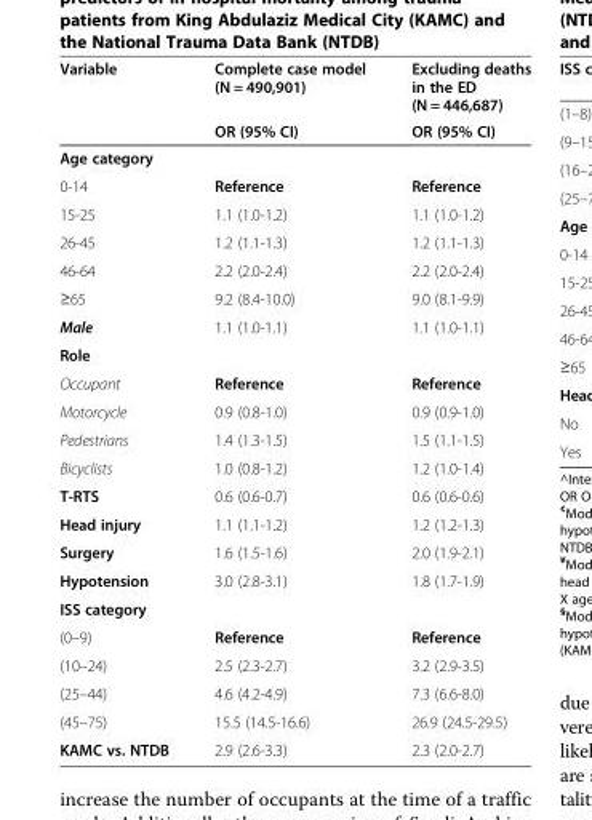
<table><thead><tr><td rowspan="2">Variable</td><td rowspan="2">Complete case model (N = 490,901) OR (95% CI)</td><td rowspan="2">Excluding deaths in the ED (N = 446,687) OR (95% CI)</td></tr><tr></tr></thead><tbody><tr><td colspan="3">Age category</td></tr><tr><td>0-14</td><td>Reference</td><td>Reference</td></tr><tr><td>15-25</td><td>1.1 (1.0-1.2)</td><td>1.1 (1.0-1.2)</td></tr><tr><td>26-45</td><td>1.2 (1.1-1.3)</td><td>1.2 (1.1-1.3)</td></tr><tr><td>46-64</td><td>2.2 (2.0-2.4)</td><td>2.2 (2.0-2.4)</td></tr><tr><td>≥65</td><td>9.2 (8.4-10.0)</td><td>9.0 (8.1-9.9)</td></tr><tr><td>Male</td><td>1.1 (1.0-1.1)</td><td>1.1 (1.0-1.1)</td></tr><tr><td colspan="3">Role</td></tr><tr><td>Occupant</td><td>Reference</td><td>Reference</td></tr><tr><td>Motorcycle</td><td>0.9 (0.8-1.0)</td><td>0.9 (0.9-1.0)</td></tr><tr><td>Pedestrians</td><td>1.4 (1.3-1.5)</td><td>1.5 (1.1-1.5)</td></tr><tr><td>Bicyclists</td><td>1.0 (0.8-1.2)</td><td>1.2 (1.0-1.4)</td></tr><tr><td>T-RTS</td><td>0.6 (0.6-0.7)</td><td>0.6 (0.6-0.6)</td></tr><tr><td>Head injury</td><td>1.1 (1.1-1.2)</td><td>1.2 (1.2-1.3)</td></tr><tr><td>Surgery</td><td>1.6 (1.5-1.6)</td><td>2.0 (1.9-2.1)</td></tr><tr><td>Hypotension</td><td>3.0 (2.8-3.1)</td><td>1.8 (1.7-1.9)</td></tr><tr><td colspan="3">ISS category</td></tr><tr><td>(0–9)</td><td>Reference</td><td>Reference</td></tr><tr><td>(10–24)</td><td>2.5 (2.3-2.7)</td><td>3.2 (2.9-3.5)</td></tr><tr><td>(25–44)</td><td>4.6 (4.2-4.9)</td><td>7.3 (6.6-8.0)</td></tr><tr><td>(45–75)</td><td>15.5 (14.5-16.6)</td><td>26.9 (24.5-29.5)</td></tr><tr><td>KAMC vs. NTDB</td><td>2.9 (2.6-3.3)</td><td>2.3 (2.0-2.7)</td></tr></tbody></table>